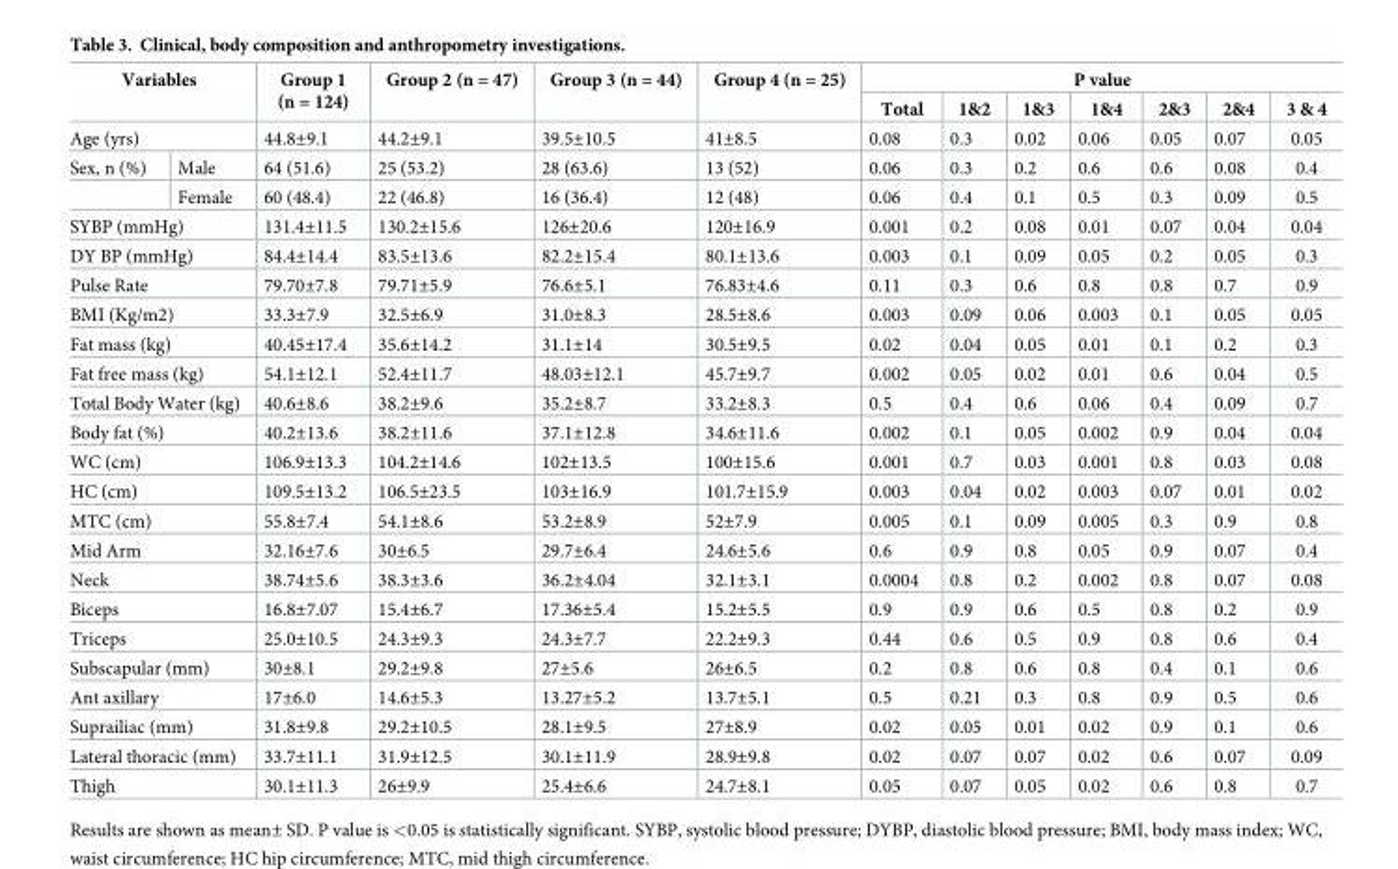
<table><thead><tr><td rowspan="3" colspan="2">Variables Age (yrs)</td><td rowspan="4">Group 1 (n = 124) 44.8±9.1 64 (51.6)</td><td rowspan="4">Group 2 (n = 47) 44.2±9.1 25 (53.2)</td><td rowspan="4">Group 3 (n = 44) 39.5±10.5 28 (63.6)</td><td rowspan="4">Group 4 (n = 25) 41±8.5 13 (52)</td><td colspan="7">P value</td></tr><tr><td rowspan="3">Total 0.08 0.06</td><td rowspan="3">1&amp;2 0.3 0.3</td><td rowspan="3">1&amp;3 0.02 0.2</td><td rowspan="3">1&amp;4 0.06 0.6</td><td rowspan="3">2&amp;3 0.05 0.6</td><td rowspan="3">2&amp;4 0.07 0.08</td><td rowspan="3">3 &amp; 4 0.05 0.4</td></tr><tr></tr><tr><td>Sex, n (%)</td><td>Male</td></tr></thead><tbody><tr><td></td><td>Female</td><td>60 (48.4)</td><td>22 (46.8)</td><td>16 (36.4)</td><td>12 (48)</td><td>0.06</td><td>0.4</td><td>0.1</td><td>0.5</td><td>0.3</td><td>0.09</td><td>0.5</td></tr><tr><td colspan="2">SYBP (mmHg)</td><td>131.4±11.5</td><td>130.2±15.6</td><td>126±20.6</td><td>120±16.9</td><td>0.001</td><td>0.2</td><td>0.08</td><td>0.01</td><td>0.07</td><td>0.04</td><td>0.04</td></tr><tr><td colspan="2">DY BP (mmHg)</td><td>84.4±14.4</td><td>83.5±13.6</td><td>82.2±15.4</td><td>80.1±13.6</td><td>0.003</td><td>0.1</td><td>0.09</td><td>0.05</td><td>0.2</td><td>0.05</td><td>0.3</td></tr><tr><td colspan="2">Pulse Rate</td><td>79.70±7.8</td><td>79.71±5.9</td><td>76.6±5.1</td><td>76.83±4.6</td><td>0.11</td><td>0.3</td><td>0.6</td><td>0.8</td><td>0.8</td><td>0.7</td><td>0.9</td></tr><tr><td colspan="2">BMI (Kg/m2)</td><td>33.3±7.9</td><td>32.5±6.9</td><td>31.0±8.3</td><td>28.5±8.6</td><td>0.003</td><td>0.09</td><td>0.06</td><td>0.003</td><td>0.1</td><td>0.05</td><td>0.05</td></tr><tr><td colspan="2">Fat mass (kg)</td><td>40.45±17.4</td><td>35.6±14.2</td><td>31.1±14</td><td>30.5±9.5</td><td>0.02</td><td>0.04</td><td>0.05</td><td>0.01</td><td>0.1</td><td>0.2</td><td>0.3</td></tr><tr><td colspan="2">Fat free mass (kg)</td><td>54.1±12.1</td><td>52.4±11.7</td><td>48.03±12.1</td><td>45.7±9.7</td><td>0.002</td><td>0.05</td><td>0.02</td><td>0.01</td><td>0.6</td><td>0.04</td><td>0.5</td></tr><tr><td colspan="2">Total Body Water (kg)</td><td>40.6±8.6</td><td>38.2±9.6</td><td>35.2±8.7</td><td>33.2±8.3</td><td>0.5</td><td>0.4</td><td>0.6</td><td>0.06</td><td>0.4</td><td>0.09</td><td>0.7</td></tr><tr><td colspan="2">Body fat (%)</td><td>40.2±13.6</td><td>38.2±11.6</td><td>37.1±12.8</td><td>34.6±11.6</td><td>0.002</td><td>0.1</td><td>0.05</td><td>0.002</td><td>0.9</td><td>0.04</td><td>0.04</td></tr><tr><td colspan="2">WC (cm)</td><td>106.9±13.3</td><td>104.2±14.6</td><td>102±13.5</td><td>100±15.6</td><td>0.001</td><td>0.7</td><td>0.03</td><td>0.001</td><td>0.8</td><td>0.03</td><td>0.08</td></tr><tr><td colspan="2">HC (cm)</td><td>109.5±13.2</td><td>106.5±23.5</td><td>103±16.9</td><td>101.7±15.9</td><td>0.003</td><td>0.04</td><td>0.02</td><td>0.003</td><td>0.07</td><td>0.01</td><td>0.02</td></tr><tr><td colspan="2">MTC (cm)</td><td>55.8±7.4</td><td>54.1±8.6</td><td>53.2±8.9</td><td>52±7.9</td><td>0.005</td><td>0.1</td><td>0.09</td><td>0.005</td><td>0.3</td><td>0.9</td><td>0.8</td></tr><tr><td colspan="2">Mid Arm</td><td>32.16±7.6</td><td>30±6.5</td><td>29.7±6.4</td><td>24.6±5.6</td><td>0.6</td><td>0.9</td><td>0.8</td><td>0.05</td><td>0.9</td><td>0.07</td><td>0.4</td></tr><tr><td colspan="2">Neck</td><td>38.74±5.6</td><td>38.3±3.6</td><td>36.2±4.04</td><td>32.1±3.1</td><td>0.0004</td><td>0.8</td><td>0.2</td><td>0.002</td><td>0.8</td><td>0.07</td><td>0.08</td></tr><tr><td colspan="2">Biceps</td><td>16.8±7.07</td><td>15.4±6.7</td><td>17.36±5.4</td><td>15.2±5.5</td><td>0.9</td><td>0.9</td><td>0.6</td><td>0.5</td><td>0.8</td><td>0.2</td><td>0.9</td></tr><tr><td colspan="2">Triceps</td><td>25.0±10.5</td><td>24.3±9.3</td><td>24.3±7.7</td><td>22.2±9.3</td><td>0.44</td><td>0.6</td><td>0.5</td><td>0.9</td><td>0.8</td><td>0.6</td><td>0.4</td></tr><tr><td colspan="2">Subscapular (mm)</td><td>30±8.1</td><td>29.2±9.8</td><td>27±5.6</td><td>26±6.5</td><td>0.2</td><td>0.8</td><td>0.6</td><td>0.8</td><td>0.4</td><td>0.1</td><td>0.6</td></tr><tr><td colspan="2">Ant axillary</td><td>17±6.0</td><td>14.6±5.3</td><td>13.27±5.2</td><td>13.7±5.1</td><td>0.5</td><td>0.21</td><td>0.3</td><td>0.8</td><td>0.9</td><td>0.5</td><td>0.6</td></tr><tr><td colspan="2">Suprailiac (mm)</td><td>31.8±9.8</td><td>29.2±10.5</td><td>28.1±9.5</td><td>27±8.9</td><td>0.02</td><td>0.05</td><td>0.01</td><td>0.02</td><td>0.9</td><td>0.1</td><td>0.6</td></tr><tr><td colspan="2">Lateral thoracic (mm)</td><td>33.7±11.1</td><td>31.9±12.5</td><td>30.1±11.9</td><td>28.9±9.8</td><td>0.02</td><td>0.07</td><td>0.07</td><td>0.02</td><td>0.6</td><td>0.07</td><td>0.09</td></tr><tr><td colspan="2">Thigh</td><td>30.1±11.3</td><td>26±9.9</td><td>25.4±6.6</td><td>24.7±8.1</td><td>0.05</td><td>0.07</td><td>0.05</td><td>0.02</td><td>0.6</td><td>0.8</td><td>0.7</td></tr></tbody></table>